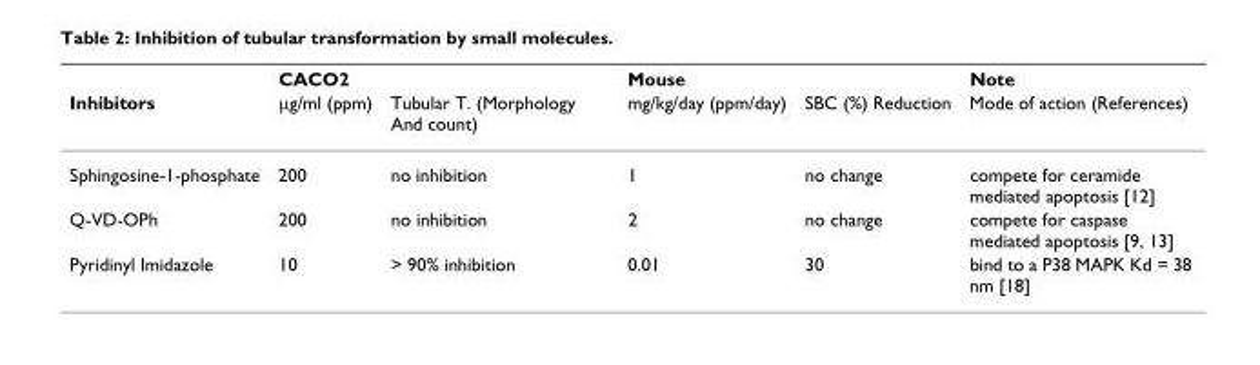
<table><thead><tr><td rowspan="2">Inhibitors</td><td colspan="2">CACO2</td><td colspan="2">Mouse</td><td rowspan="2">Note Mode of action (References)</td></tr><tr><td>µg/ml (ppm)</td><td>Tubular T. (Morphology And count)</td><td>mg/kg/day (ppm/day)</td><td>SBC (%) Reduction</td></tr></thead><tbody><tr><td>Sphingosine-1-phosphate</td><td>200</td><td>no inhibition</td><td>1</td><td>no change</td><td>compete for ceramide mediated apoptosis [12]</td></tr><tr><td>Q-VD-OPh</td><td>200</td><td>no inhibition</td><td>2</td><td>no change</td><td>compete for caspase mediated apoptosis [9, 13]</td></tr><tr><td>Pyridinyl Imidazole</td><td>10</td><td>&gt; 90% inhibition</td><td>0.01</td><td>30</td><td>bind to a P38 MAPK Kd = 38 nm [18]</td></tr></tbody></table>